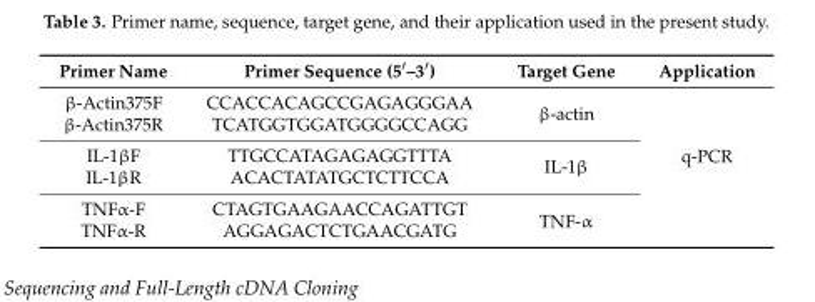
<table><thead><tr><td>Primer Name</td><td>Primer Sequence (5′–3′)</td><td>Target Gene</td><td>Application</td></tr></thead><tbody><tr><td>β-Actin375F</td><td>CCACCACAGCCGAGAGGGAA</td><td rowspan="2">β-actin</td><td rowspan="6">q-PCR</td></tr><tr><td>β-Actin375R</td><td>TCATGGTGGATGGGGCCAGG</td></tr><tr><td>IL-1βF</td><td>TTGCCATAGAGAGGTTTA</td><td rowspan="2">IL-1β</td></tr><tr><td>IL-1βR</td><td>ACACTATATGCTCTTCCA</td></tr><tr><td>TNFα-F</td><td>CTAGTGAAGAACCAGATTGT</td><td rowspan="2">TNF-α</td></tr><tr><td>TNFα-R</td><td>AGGAGACTCTGAACGATG</td></tr></tbody></table>